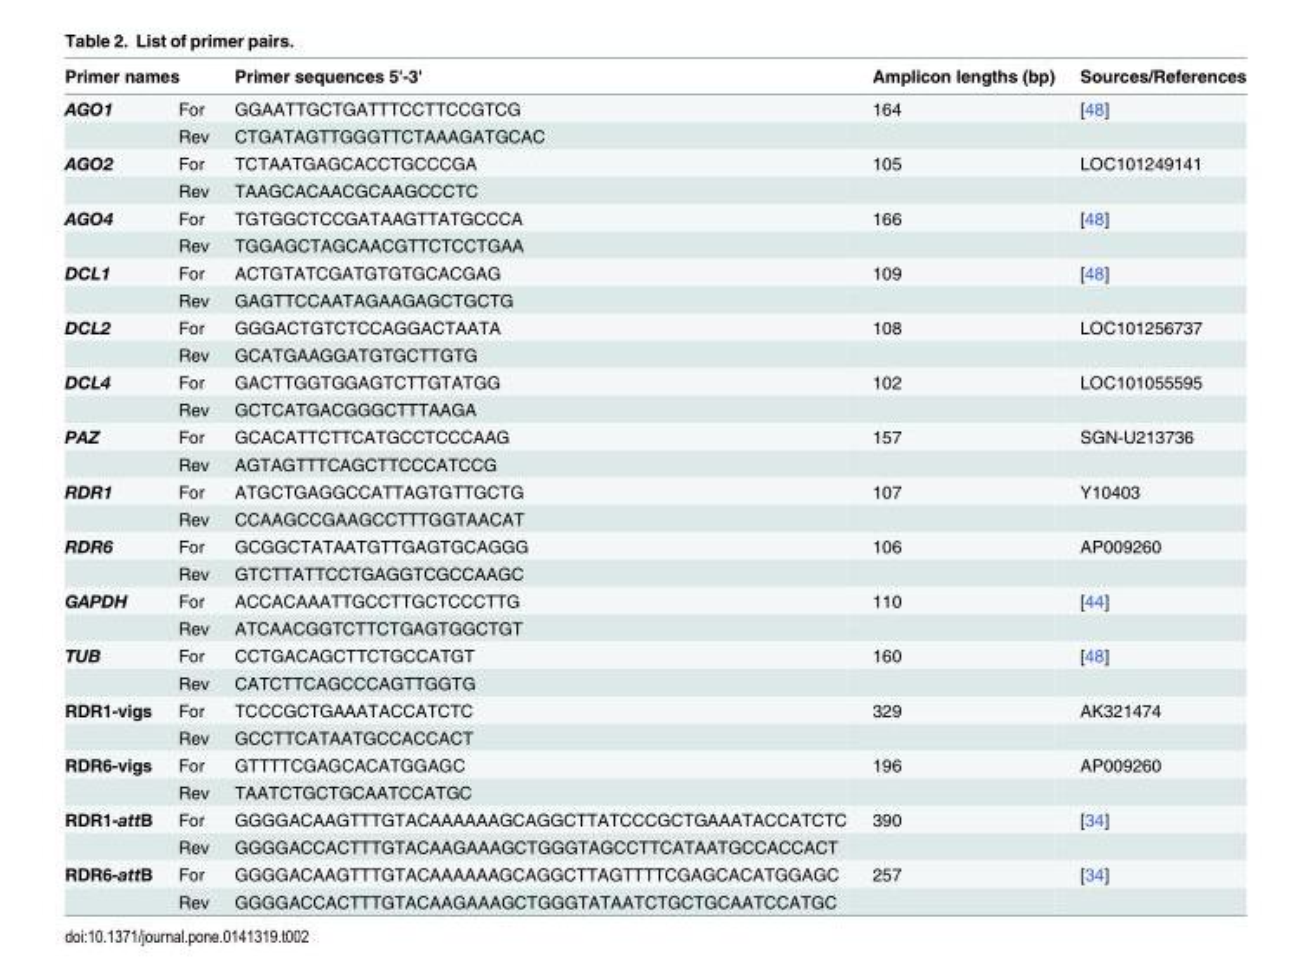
<table><thead><tr><td colspan="2">Primer names</td><td rowspan="2">Primer sequences 5&#x27;-3&#x27; GGAATTGCTGATTTCCTTCCGTCG</td><td rowspan="2">Amplicon lengths (bp) 164</td><td rowspan="2">Sources/References [48]</td></tr><tr><td>AGO1</td><td>For</td></tr></thead><tbody><tr><td></td><td>Rev</td><td>CTGATAGTTGGGTTCTAAAGATGCAC</td><td></td><td></td></tr><tr><td rowspan="2">AGO2</td><td>For</td><td>TCTAATGAGCACCTGCCCGA</td><td>105</td><td>LOC101249141</td></tr><tr><td>Rev</td><td>TAAGCACAACGCAAGCCCTC</td><td></td><td></td></tr><tr><td rowspan="2">AGO4</td><td>For</td><td>TGTGGCTCCGATAAGTTATGCCCA</td><td>166</td><td>[48]</td></tr><tr><td>Rev</td><td>TGGAGCTAGCAACGTTCTCCTGAA</td><td></td><td></td></tr><tr><td rowspan="2">DCL1</td><td>For</td><td>ACTGTATCGATGTGTGCACGAG</td><td>109</td><td>[48]</td></tr><tr><td>Rev</td><td>GAGTTCCAATAGAAGAGCTGCTG</td><td></td><td></td></tr><tr><td rowspan="2">DCL2</td><td>For</td><td>GGGACTGTCTCCAGGACTAATA</td><td>108</td><td>LOC101256737</td></tr><tr><td>Rev</td><td>GCATGAAGGATGTGCTTGTG</td><td></td><td></td></tr><tr><td rowspan="2">DCL4</td><td>For</td><td>GACTTGGTGGAGTCTTGTATGG</td><td>102</td><td>LOC101055595</td></tr><tr><td>Rev</td><td>GCTCATGACGGGCTTTAAGA</td><td></td><td></td></tr><tr><td rowspan="2">PAZ</td><td>For</td><td>GCACATTCTTCATGCCTCCCAAG</td><td>157</td><td>SGN-U213736</td></tr><tr><td>Rev</td><td>AGTAGTTTCAGCTTCCCATCCG</td><td></td><td></td></tr><tr><td rowspan="2">RDR1</td><td>For</td><td>ATGCTGAGGCCATTAGTGTTGCTG</td><td>107</td><td>Y10403</td></tr><tr><td>Rev</td><td>CCAAGCCGAAGCCTTTGGTAACAT</td><td></td><td></td></tr><tr><td rowspan="2">RDR6</td><td>For</td><td>GCGGCTATAATGTTGAGTGCAGGG</td><td>106</td><td>AP009260</td></tr><tr><td>Rev</td><td>GTCTTATTCCTGAGGTCGCCAAGC</td><td></td><td></td></tr><tr><td rowspan="2">GAPDH</td><td>For</td><td>ACCACAAATTGCCTTGCTCCCTTG</td><td>110</td><td>[44]</td></tr><tr><td>Rev</td><td>ATCAACGGTCTTCTGAGTGGCTGT</td><td></td><td></td></tr><tr><td rowspan="2">TUB</td><td>For</td><td>CCTGACAGCTTCTGCCATGT</td><td>160</td><td>[48]</td></tr><tr><td>Rev</td><td>CATCTTCAGCCCAGTTGGTG</td><td></td><td></td></tr><tr><td rowspan="2">RDR1-vigs</td><td>For</td><td>TCCCGCTGAAATACCATCTC</td><td>329</td><td>AK321474</td></tr><tr><td>Rev</td><td>GCCTTCATAATGCCACCACT</td><td></td><td></td></tr><tr><td rowspan="2">RDR6-vigs</td><td>For</td><td>GTTTTCGAGCACATGGAGC</td><td>196</td><td>AP009260</td></tr><tr><td>Rev</td><td>TAATCTGCTGCAATCCATGC</td><td></td><td></td></tr><tr><td rowspan="2">RDR1-attB</td><td>For</td><td>GGGGACAAGTTTGTACAAAAAAGCAGGCTTATCCCGCTGAAATACCATCTC</td><td>390</td><td>[34]</td></tr><tr><td>Rev</td><td>GGGGACCACTTTGTACAAGAAAGCTGGGTAGCCTTCATAATGCCACCACT</td><td></td><td></td></tr><tr><td rowspan="2">RDR6-attB</td><td>For</td><td>GGGGACAAGTTTGTACAAAAAAGCAGGCTTAGTTTTCGAGCACATGGAGC</td><td>257</td><td>[34]</td></tr><tr><td>Rev</td><td>GGGGACCACTTTGTACAAGAAAGCTGGGTATAATCTGCTGCAATCCATGC</td><td></td><td></td></tr></tbody></table>